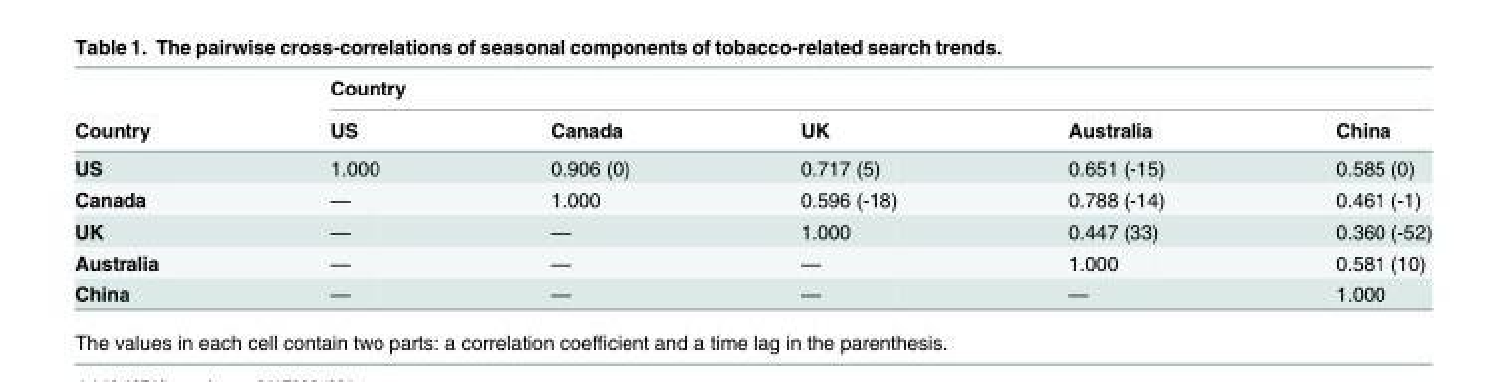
<table><thead><tr><td rowspan="2">Country</td><td colspan="5">Country</td></tr><tr><td>US</td><td>Canada</td><td>UK</td><td>Australia</td><td>China</td></tr></thead><tbody><tr><td>US</td><td>1.000</td><td>0.906 (0)</td><td>0.717 (5)</td><td>0.651 (-15)</td><td>0.585 (0)</td></tr><tr><td>Canada</td><td>—</td><td>1.000</td><td>0.596 (-18)</td><td>0.788 (-14)</td><td>0.461 (-1)</td></tr><tr><td>UK</td><td>—</td><td>—</td><td>1.000</td><td>0.447 (33)</td><td>0.360 (-52)</td></tr><tr><td>Australia</td><td>—</td><td>—</td><td>—</td><td>1.000</td><td>0.581 (10)</td></tr><tr><td>China</td><td>—</td><td>—</td><td>—</td><td>—</td><td>1.000</td></tr></tbody></table>